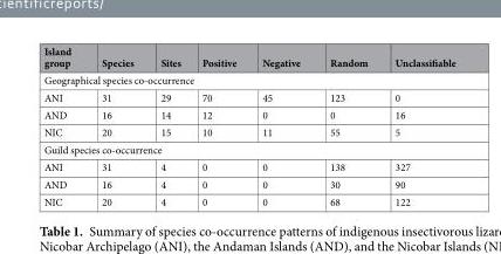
<table><thead><tr><td>Island group</td><td>Species</td><td>Sites</td><td>Positive</td><td>Negative</td><td>Random</td><td>Unclassifiable</td></tr></thead><tbody><tr><td colspan="7">Geographical species co-occurrence</td></tr><tr><td>ANI</td><td>31</td><td>29</td><td>70</td><td>45</td><td>123</td><td>0</td></tr><tr><td>AND</td><td>16</td><td>14</td><td>12</td><td>0</td><td>0</td><td>16</td></tr><tr><td>NIC</td><td>20</td><td>15</td><td>10</td><td>11</td><td>55</td><td>5</td></tr><tr><td colspan="7">Guild species co-occurrence</td></tr><tr><td>ANI</td><td>31</td><td>4</td><td>0</td><td>0</td><td>138</td><td>327</td></tr><tr><td>AND</td><td>16</td><td>4</td><td>0</td><td>0</td><td>30</td><td>90</td></tr><tr><td>NIC</td><td>20</td><td>4</td><td>0</td><td>0</td><td>68</td><td>122</td></tr></tbody></table>